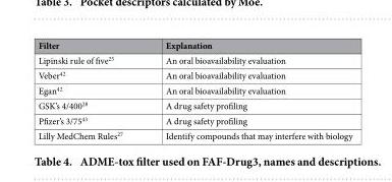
<table><thead><tr><td>Filter</td><td>Explanation</td></tr></thead><tbody><tr><td>Lipinski rule of five<sup>25</sup></td><td>An oral bioavailability evaluation</td></tr><tr><td>Veber<sup>42</sup></td><td>An oral bioavailability evaluation</td></tr><tr><td>Egan<sup>42</sup></td><td>An oral bioavailability evaluation</td></tr><tr><td>GSK’s 4/400<sup>28</sup></td><td>A drug safety profiling</td></tr><tr><td>Pfizer’s 3/75<sup>43</sup></td><td>A drug safety profiling</td></tr><tr><td>Lilly MedChem Rules<sup>27</sup></td><td>Identify compounds that may interfere with biology</td></tr></tbody></table>